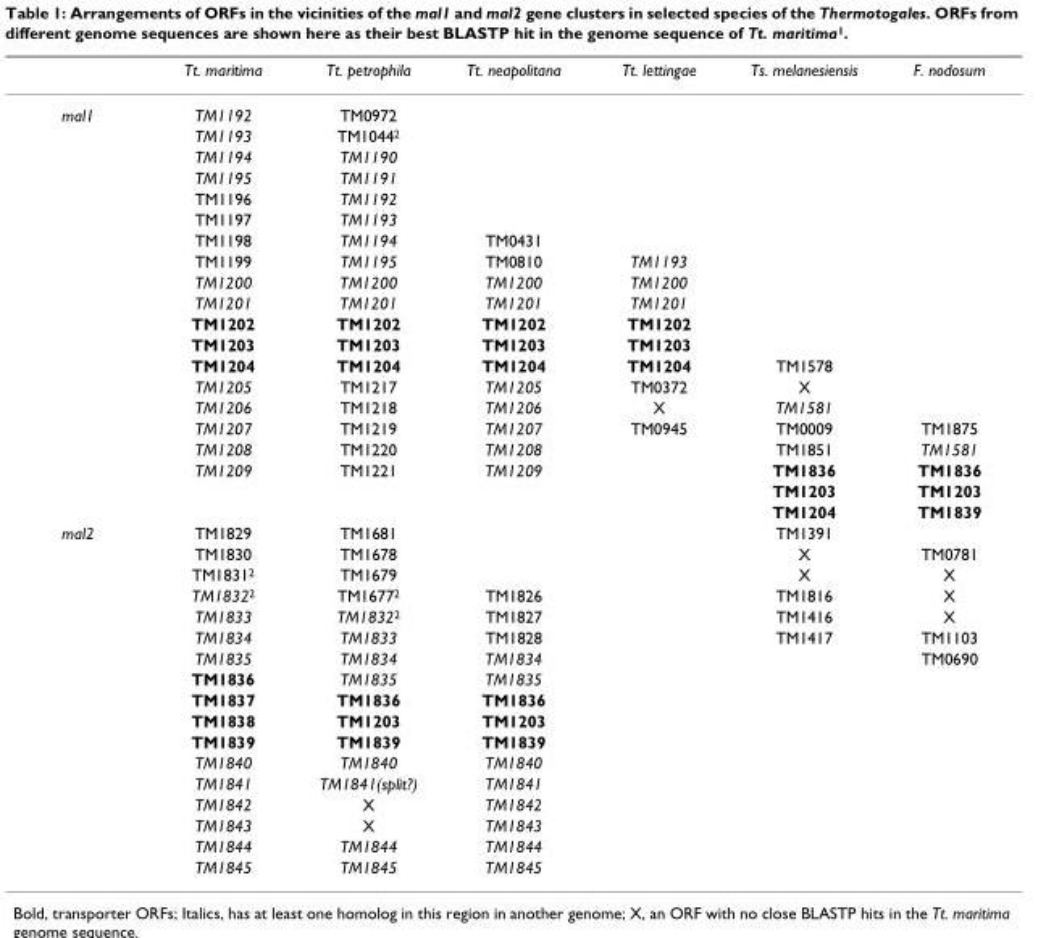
<table><thead><tr><td></td><td>Tt. maritima</td><td>Tt. petrophila</td><td>Tt. neapolitana</td><td>Tt. lettingae</td><td>Ts. melanesiensis</td><td>F. nodosum</td></tr></thead><tbody><tr><td rowspan="20">mal1</td><td>TM1192</td><td>TM0972</td><td></td><td></td><td></td><td></td></tr><tr><td>TM1193</td><td>TM1044<sup>2</sup></td><td></td><td></td><td></td><td></td></tr><tr><td>TM1194</td><td>TM1190</td><td></td><td></td><td></td><td></td></tr><tr><td>TM1195</td><td>TM1191</td><td></td><td></td><td></td><td></td></tr><tr><td>TM1196</td><td>TM1192</td><td></td><td></td><td></td><td></td></tr><tr><td>TM1197</td><td>TM1193</td><td></td><td></td><td></td><td></td></tr><tr><td>TM1198</td><td>TM1194</td><td>TM0431</td><td></td><td></td><td></td></tr><tr><td>TM1199</td><td>TM1195</td><td>TM0810</td><td>TM1193</td><td></td><td></td></tr><tr><td>TM1200</td><td>TM1200</td><td>TM1200</td><td>TM1200</td><td></td><td></td></tr><tr><td>TM1201</td><td>TM1201</td><td>TM1201</td><td>TM1201</td><td></td><td></td></tr><tr><td>TM1202</td><td>TM1202</td><td>TM1202</td><td>TM1202</td><td></td><td></td></tr><tr><td>TM1203</td><td>TM1203</td><td>TM1203</td><td>TM1203</td><td></td><td></td></tr><tr><td>TM1204</td><td>TM1204</td><td>TM1204</td><td>TM1204</td><td>TM1578</td><td></td></tr><tr><td>TM1205</td><td>TM1217</td><td>TM1205</td><td>TM0372</td><td>X</td><td></td></tr><tr><td>TM1206</td><td>TM1218</td><td>TM1206</td><td>X</td><td>TM1581</td><td></td></tr><tr><td>TM1207</td><td>TM1219</td><td>TM1207</td><td>TM0945</td><td>TM0009</td><td>TM1875</td></tr><tr><td>TM1208</td><td>TM1220</td><td>TM1208</td><td></td><td>TM1851</td><td>TM1581</td></tr><tr><td>TM1209</td><td>TM1221</td><td>TM1209</td><td></td><td>TM1836</td><td>TM1836</td></tr><tr><td></td><td></td><td></td><td></td><td>TM1203</td><td>TM1203</td></tr><tr><td></td><td></td><td></td><td></td><td>TM1204</td><td>TM1839</td></tr><tr><td rowspan="17">mal2</td><td>TM1829</td><td>TM1681</td><td></td><td></td><td>TM1391</td><td></td></tr><tr><td>TM1830</td><td>TM1678</td><td></td><td></td><td>X</td><td>TM0781</td></tr><tr><td>TM1831<sup>2</sup></td><td>TM1679</td><td></td><td></td><td>X</td><td>X</td></tr><tr><td>TM1832<sup>2</sup></td><td>TM1677<sup>2</sup></td><td>TM1826</td><td></td><td>TM1816</td><td>X</td></tr><tr><td>TM1833</td><td>TM1832<sup>2</sup></td><td>TM1827</td><td></td><td>TM1416</td><td>X</td></tr><tr><td>TM1834</td><td>TM1833</td><td>TM1828</td><td></td><td>TM1417</td><td>TM1103</td></tr><tr><td>TM1835</td><td>TM1834</td><td>TM1834</td><td></td><td></td><td>TM0690</td></tr><tr><td>TM1836</td><td>TM1835</td><td>TM1835</td><td></td><td></td><td></td></tr><tr><td>TM1837</td><td>TM1836</td><td>TM1836</td><td></td><td></td><td></td></tr><tr><td>TM1838</td><td>TM1203</td><td>TM1203</td><td></td><td></td><td></td></tr><tr><td>TM1839</td><td>TM1839</td><td>TM1839</td><td></td><td></td><td></td></tr><tr><td>TM1840</td><td>TM1840</td><td>TM1840</td><td></td><td></td><td></td></tr><tr><td>TM1841</td><td>TM1841(split?)</td><td>TM1841</td><td></td><td></td><td></td></tr><tr><td>TM1842</td><td>X</td><td>TM1842</td><td></td><td></td><td></td></tr><tr><td>TM1843</td><td>X</td><td>TM1843</td><td></td><td></td><td></td></tr><tr><td>TM1844</td><td>TM1844</td><td>TM1844</td><td></td><td></td><td></td></tr><tr><td>TM1845</td><td>TM1845</td><td>TM1845</td><td></td><td></td><td></td></tr></tbody></table>